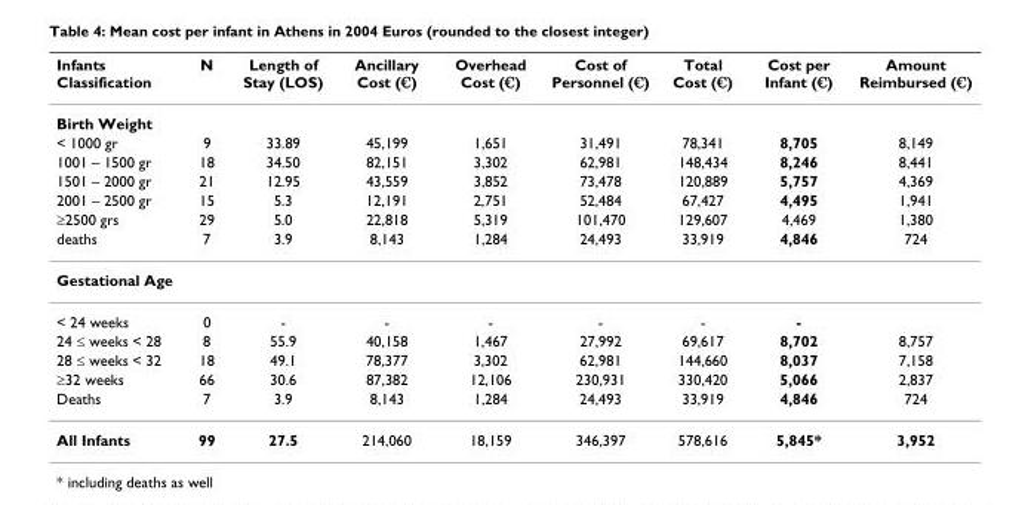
<table><thead><tr><td>Infants Classification</td><td>N</td><td>Length of Stay (LOS)</td><td>Ancillary Cost (€)</td><td>Overhead Cost (€)</td><td>Cost of Personnel (€)</td><td>Total Cost (€)</td><td>Cost per Infant (€)</td><td>Amount Reimbursed (€)</td></tr></thead><tbody><tr><td colspan="9">Birth Weight</td></tr><tr><td>&lt; 1000 gr</td><td>9</td><td>33.89</td><td>45,199</td><td>1,651</td><td>31,491</td><td>78,341</td><td>8,705</td><td>8,149</td></tr><tr><td>1001 – 1500 gr</td><td>18</td><td>34.50</td><td>82,151</td><td>3,302</td><td>62,981</td><td>148,434</td><td>8,246</td><td>8,441</td></tr><tr><td>1501 – 2000 gr</td><td>21</td><td>12.95</td><td>43,559</td><td>3,852</td><td>73,478</td><td>120,889</td><td>5,757</td><td>4,369</td></tr><tr><td>2001 – 2500 gr</td><td>15</td><td>5.3</td><td>12,191</td><td>2,751</td><td>52,484</td><td>67,427</td><td>4,495</td><td>1,941</td></tr><tr><td>≥2500 grs</td><td>29</td><td>5.0</td><td>22,818</td><td>5,319</td><td>101,470</td><td>129,607</td><td>4,469</td><td>1,380</td></tr><tr><td>deaths</td><td>7</td><td>3.9</td><td>8,143</td><td>1,284</td><td>24,493</td><td>33,919</td><td>4,846</td><td>724</td></tr><tr><td colspan="9">Gestational Age</td></tr><tr><td>&lt; 24 weeks</td><td>0</td><td>-</td><td>-</td><td>-</td><td>-</td><td>-</td><td>-</td><td></td></tr><tr><td>24 ≤ weeks &lt; 28</td><td>8</td><td>55.9</td><td>40,158</td><td>1,467</td><td>27,992</td><td>69,617</td><td>8,702</td><td>8,757</td></tr><tr><td>28 ≤ weeks &lt; 32</td><td>18</td><td>49.1</td><td>78,377</td><td>3,302</td><td>62,981</td><td>144,660</td><td>8,037</td><td>7,158</td></tr><tr><td>≥32 weeks</td><td>66</td><td>30.6</td><td>87,382</td><td>12,106</td><td>230,931</td><td>330,420</td><td>5,066</td><td>2,837</td></tr><tr><td>Deaths</td><td>7</td><td>3.9</td><td>8,143</td><td>1,284</td><td>24,493</td><td>33,919</td><td>4,846</td><td>724</td></tr><tr><td>All Infants</td><td>99</td><td>27.5</td><td>214,060</td><td>18,159</td><td>346,397</td><td>578,616</td><td>5,845*</td><td>3,952</td></tr></tbody></table>